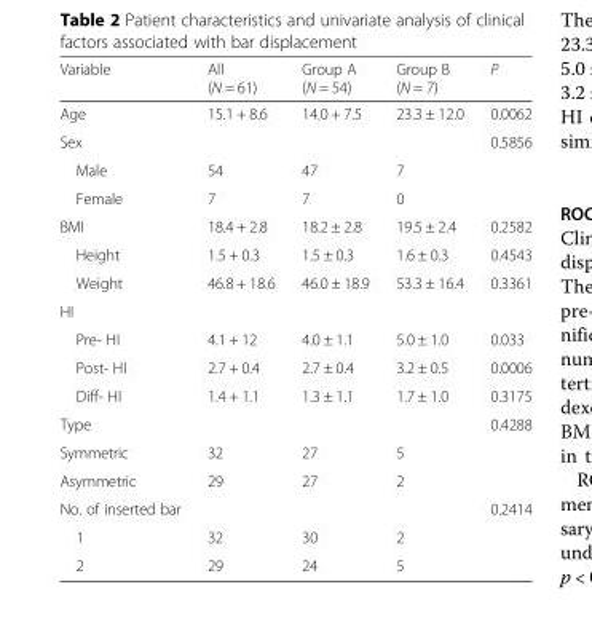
<table><thead><tr><td>Variable</td><td>All (N = 61)</td><td>Group A (N = 54)</td><td>Group B (N = 7)</td><td>P</td></tr></thead><tbody><tr><td>Age</td><td>15.1 + 8.6</td><td>14.0 + 7.5</td><td>23.3 ± 12.0</td><td>0.0062</td></tr><tr><td>Sex</td><td></td><td></td><td></td><td>0.5856</td></tr><tr><td>Male</td><td>54</td><td>47</td><td>7</td><td></td></tr><tr><td>Female</td><td>7</td><td>7</td><td>0</td><td></td></tr><tr><td>BMI</td><td>18.4 + 2.8</td><td>18.2 ± 2.8</td><td>19.5 ± 2.4</td><td>0.2582</td></tr><tr><td>Height</td><td>1.5 + 0.3</td><td>1.5 ± 0.3</td><td>1.6 ± 0.3</td><td>0.4543</td></tr><tr><td>Weight</td><td>46.8 + 18.6</td><td>46.0 ± 18.9</td><td>53.3 ± 16.4</td><td>0.3361</td></tr><tr><td colspan="5">HI</td></tr><tr><td>Pre- HI</td><td>4.1 + 12</td><td>4.0 ± 1.1</td><td>5.0 ± 1.0</td><td>0.033</td></tr><tr><td>Post- HI</td><td>2.7 + 0.4</td><td>2.7 ± 0.4</td><td>3.2 ± 0.5</td><td>0.0006</td></tr><tr><td>Diff- HI</td><td>1.4 + 1.1</td><td>1.3 ± 1.1</td><td>1.7 ± 1.0</td><td>0.3175</td></tr><tr><td>Type</td><td></td><td></td><td></td><td>0.4288</td></tr><tr><td>Symmetric</td><td>32</td><td>27</td><td>5</td><td></td></tr><tr><td>Asymmetric</td><td>29</td><td>27</td><td>2</td><td></td></tr><tr><td>No. of inserted bar</td><td></td><td></td><td></td><td>0.2414</td></tr><tr><td>1</td><td>32</td><td>30</td><td>2</td><td></td></tr><tr><td>2</td><td>29</td><td>24</td><td>5</td><td></td></tr></tbody></table>